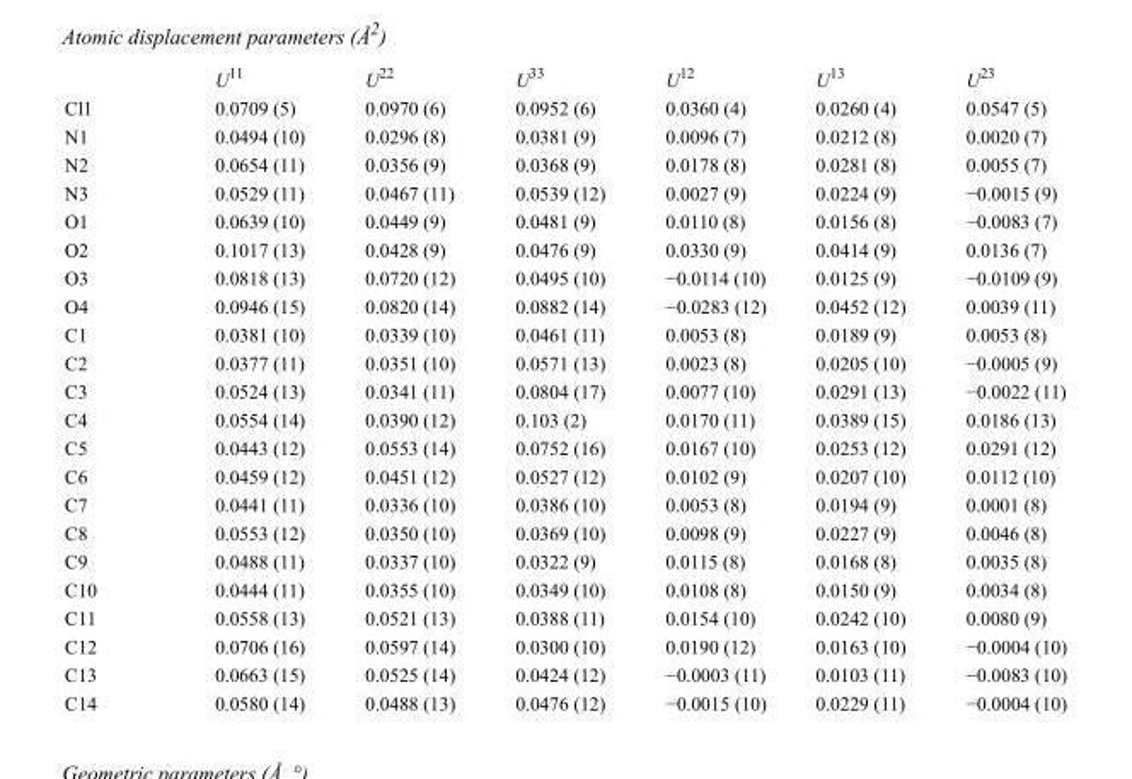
<table><thead><tr><td></td><td>U<sup>11</sup></td><td>U<sup>22</sup></td><td>U<sup>33</sup></td><td>U<sup>12</sup></td><td>U<sup>13</sup></td><td>U<sup>23</sup></td></tr></thead><tbody><tr><td>Cl1</td><td>0.0709 (5)</td><td>0.0970 (6)</td><td>0.0952 (6)</td><td>0.0360 (4)</td><td>0.0260 (4)</td><td>0.0547 (5)</td></tr><tr><td>N1</td><td>0.0494 (10)</td><td>0.0296 (8)</td><td>0.0381 (9)</td><td>0.0096 (7)</td><td>0.0212 (8)</td><td>0.0020 (7)</td></tr><tr><td>N2</td><td>0.0654 (11)</td><td>0.0356 (9)</td><td>0.0368 (9)</td><td>0.0178 (8)</td><td>0.0281 (8)</td><td>0.0055 (7)</td></tr><tr><td>N3</td><td>0.0529 (11)</td><td>0.0467 (11)</td><td>0.0539 (12)</td><td>0.0027 (9)</td><td>0.0224 (9)</td><td>−0.0015 (9)</td></tr><tr><td>O1</td><td>0.0639 (10)</td><td>0.0449 (9)</td><td>0.0481 (9)</td><td>0.0110 (8)</td><td>0.0156 (8)</td><td>−0.0083 (7)</td></tr><tr><td>O2</td><td>0.1017 (13)</td><td>0.0428 (9)</td><td>0.0476 (9)</td><td>0.0330 (9)</td><td>0.0414 (9)</td><td>0.0136 (7)</td></tr><tr><td>O3</td><td>0.0818 (13)</td><td>0.0720 (12)</td><td>0.0495 (10)</td><td>−0.0114 (10)</td><td>0.0125 (9)</td><td>−0.0109 (9)</td></tr><tr><td>O4</td><td>0.0946 (15)</td><td>0.0820 (14)</td><td>0.0882 (14)</td><td>−0.0283 (12)</td><td>0.0452 (12)</td><td>0.0039 (11)</td></tr><tr><td>C1</td><td>0.0381 (10)</td><td>0.0339 (10)</td><td>0.0461 (11)</td><td>0.0053 (8)</td><td>0.0189 (9)</td><td>0.0053 (8)</td></tr><tr><td>C2</td><td>0.0377 (11)</td><td>0.0351 (10)</td><td>0.0571 (13)</td><td>0.0023 (8)</td><td>0.0205 (10)</td><td>−0.0005 (9)</td></tr><tr><td>C3</td><td>0.0524 (13)</td><td>0.0341 (11)</td><td>0.0804 (17)</td><td>0.0077 (10)</td><td>0.0291 (13)</td><td>−0.0022 (11)</td></tr><tr><td>C4</td><td>0.0554 (14)</td><td>0.0390 (12)</td><td>0.103 (2)</td><td>0.0170 (11)</td><td>0.0389 (15)</td><td>0.0186 (13)</td></tr><tr><td>C5</td><td>0.0443 (12)</td><td>0.0553 (14)</td><td>0.0752 (16)</td><td>0.0167 (10)</td><td>0.0253 (12)</td><td>0.0291 (12)</td></tr><tr><td>C6</td><td>0.0459 (12)</td><td>0.0451 (12)</td><td>0.0527 (12)</td><td>0.0102 (9)</td><td>0.0207 (10)</td><td>0.0112 (10)</td></tr><tr><td>C7</td><td>0.0441 (11)</td><td>0.0336 (10)</td><td>0.0386 (10)</td><td>0.0053 (8)</td><td>0.0194 (9)</td><td>0.0001 (8)</td></tr><tr><td>C8</td><td>0.0553 (12)</td><td>0.0350 (10)</td><td>0.0369 (10)</td><td>0.0098 (9)</td><td>0.0227 (9)</td><td>0.0046 (8)</td></tr><tr><td>C9</td><td>0.0488 (11)</td><td>0.0337 (10)</td><td>0.0322 (9)</td><td>0.0115 (8)</td><td>0.0168 (8)</td><td>0.0035 (8)</td></tr><tr><td>C10</td><td>0.0444 (11)</td><td>0.0355 (10)</td><td>0.0349 (10)</td><td>0.0108 (8)</td><td>0.0150 (9)</td><td>0.0034 (8)</td></tr><tr><td>C11</td><td>0.0558 (13)</td><td>0.0521 (13)</td><td>0.0388 (11)</td><td>0.0154 (10)</td><td>0.0242 (10)</td><td>0.0080 (9)</td></tr><tr><td>C12</td><td>0.0706 (16)</td><td>0.0597 (14)</td><td>0.0300 (10)</td><td>0.0190 (12)</td><td>0.0163 (10)</td><td>−0.0004 (10)</td></tr><tr><td>C13</td><td>0.0663 (15)</td><td>0.0525 (14)</td><td>0.0424 (12)</td><td>−0.0003 (11)</td><td>0.0103 (11)</td><td>−0.0083 (10)</td></tr><tr><td>C14</td><td>0.0580 (14)</td><td>0.0488 (13)</td><td>0.0476 (12)</td><td>−0.0015 (10)</td><td>0.0229 (11)</td><td>−0.0004 (10)</td></tr></tbody></table>